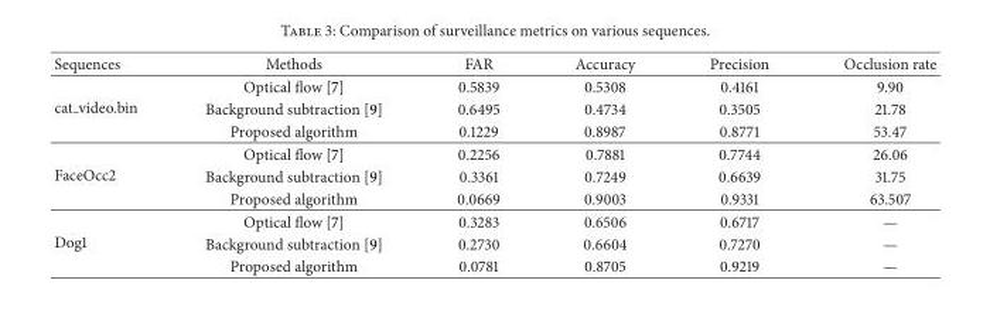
<table><thead><tr><td>Sequences</td><td>Methods</td><td>FAR</td><td>Accuracy</td><td>Precision</td><td>Occlusion rate</td></tr></thead><tbody><tr><td rowspan="3">cat video.bin</td><td>Optical flow [7]</td><td>0.5839</td><td>0.5308</td><td>0.4161</td><td>9.90</td></tr><tr><td>Background subtraction [9]</td><td>0.6495</td><td>0.4734</td><td>0.3505</td><td>21.78</td></tr><tr><td>Proposed algorithm</td><td>0.1229</td><td>0.8987</td><td>0.8771</td><td>53.47</td></tr><tr><td rowspan="3">FaceOcc2</td><td>Optical flow [7]</td><td>0.2256</td><td>0.7881</td><td>0.7744</td><td>26.06</td></tr><tr><td>Background subtraction [9]</td><td>0.3361</td><td>0.7249</td><td>0.6639</td><td>31.75</td></tr><tr><td>Proposed algorithm</td><td>0.0669</td><td>0.9003</td><td>0.9331</td><td>63.507</td></tr><tr><td rowspan="3">Dog1</td><td>Optical flow [7]</td><td>0.3283</td><td>0.6506</td><td>0.6717</td><td>—</td></tr><tr><td>Background subtraction [9]</td><td>0.2730</td><td>0.6604</td><td>0.7270</td><td>—</td></tr><tr><td>Proposed algorithm</td><td>0.0781</td><td>0.8705</td><td>0.9219</td><td>—</td></tr></tbody></table>